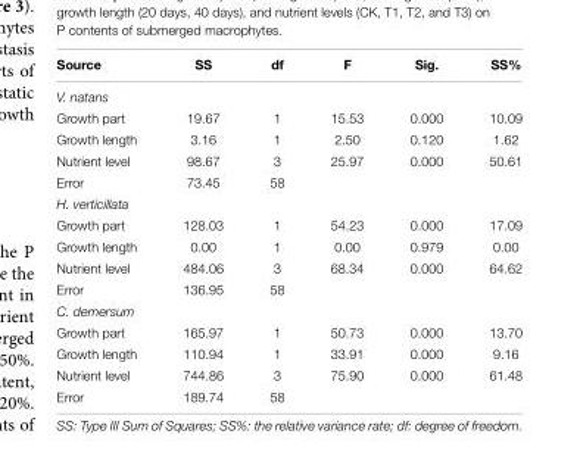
<table><thead><tr><td>Source</td><td>SS</td><td>df</td><td>F</td><td>Sig.</td><td>SS%</td></tr></thead><tbody><tr><td colspan="6">V. natans</td></tr><tr><td>Growth part</td><td>19.67</td><td>1</td><td>15.53</td><td>0.000</td><td>10.09</td></tr><tr><td>Growth length</td><td>3.16</td><td>1</td><td>2.50</td><td>0.120</td><td>1.62</td></tr><tr><td>Nutrient level</td><td>98.67</td><td>3</td><td>25.97</td><td>0.000</td><td>50.61</td></tr><tr><td>Error</td><td>73.45</td><td>58</td><td></td><td></td><td></td></tr><tr><td colspan="6">H. verticillata</td></tr><tr><td>Growth part</td><td>128.03</td><td>1</td><td>54.23</td><td>0.000</td><td>17.09</td></tr><tr><td>Growth length</td><td>0.00</td><td>1</td><td>0.00</td><td>0.979</td><td>0.00</td></tr><tr><td>Nutrient level</td><td>484.06</td><td>3</td><td>68.34</td><td>0.000</td><td>64.62</td></tr><tr><td>Error</td><td>136.95</td><td>58</td><td></td><td></td><td></td></tr><tr><td colspan="6">C. demersum</td></tr><tr><td>Growth part</td><td>165.97</td><td>1</td><td>50.73</td><td>0.000</td><td>13.70</td></tr><tr><td>Growth length</td><td>110.94</td><td>1</td><td>33.91</td><td>0.000</td><td>9.16</td></tr><tr><td>Nutrient level</td><td>744.86</td><td>3</td><td>75.90</td><td>0.000</td><td>61.48</td></tr><tr><td>Error</td><td>189.74</td><td>58</td><td></td><td></td><td></td></tr></tbody></table>